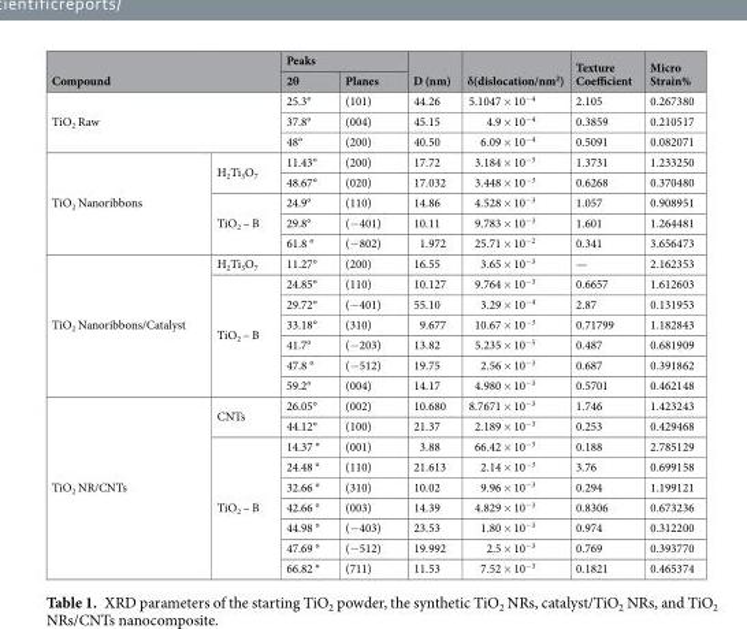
<table><thead><tr><td rowspan="2" colspan="2">Compound</td><td colspan="2">Peaks</td><td rowspan="2">D (nm)</td><td rowspan="2">δ(dislocation/nm<sup>2</sup>)</td><td rowspan="2">Texture Coefficient</td><td rowspan="2">Micro Strain%</td></tr><tr><td>2θ</td><td>Planes</td></tr></thead><tbody><tr><td rowspan="3" colspan="2">TiO<sub>2</sub> Raw</td><td>25.3°</td><td>(101)</td><td>44.26</td><td>5.1047 × 10<sup>−4</sup></td><td>2.105</td><td>0.267380</td></tr><tr><td>37.8°</td><td>(004)</td><td>45.15</td><td>4.9 × 10<sup>−4</sup></td><td>0.3859</td><td>0.210517</td></tr><tr><td>48°</td><td>(200)</td><td>40.50</td><td>6.09 × 10<sup>−4</sup></td><td>0.5091</td><td>0.082071</td></tr><tr><td rowspan="5">TiO<sub>2</sub> Nanoribbons</td><td rowspan="2">H<sub>2</sub>Ti<sub>3</sub>O<sub>7</sub></td><td>11.43°</td><td>(200)</td><td>17.72</td><td>3.184 × 10<sup>−3</sup></td><td>1.3731</td><td>1.233250</td></tr><tr><td>48.67°</td><td>(020)</td><td>17.032</td><td>3.448 × 10<sup>−3</sup></td><td>0.6268</td><td>0.370480</td></tr><tr><td rowspan="3">TiO<sub>2</sub> – B</td><td>24.9°</td><td>(110)</td><td>14.86</td><td>4.528 × 10<sup>−3</sup></td><td>1.057</td><td>0.908951</td></tr><tr><td>29.8°</td><td>(−401)</td><td>10.11</td><td>9.783 × 10<sup>−3</sup></td><td>1.601</td><td>1.264481</td></tr><tr><td>61.8 °</td><td>(−802)</td><td>1.972</td><td>25.71 × 10<sup>−2</sup></td><td>0.341</td><td>3.656473</td></tr><tr><td rowspan="7">TiO<sub>2</sub> Nanoribbons/Catalyst</td><td>H<sub>2</sub>Ti<sub>3</sub>O<sub>7</sub></td><td>11.27°</td><td>(200)</td><td>16.55</td><td>3.65 × 10<sup>−3</sup></td><td>—</td><td>2.162353</td></tr><tr><td rowspan="6">TiO<sub>2</sub> – B</td><td>24.85°</td><td>(110)</td><td>10.127</td><td>9.764 × 10<sup>−3</sup></td><td>0.6657</td><td>1.612603</td></tr><tr><td>29.72°</td><td>(−401)</td><td>55.10</td><td>3.29 × 10<sup>−4</sup></td><td>2.87</td><td>0.131953</td></tr><tr><td>33.18°</td><td>(310)</td><td>9.677</td><td>10.67 × 10<sup>−3</sup></td><td>0.71799</td><td>1.182843</td></tr><tr><td>41.7°</td><td>(−203)</td><td>13.82</td><td>5.235 × 10<sup>−5</sup></td><td>0.487</td><td>0.681909</td></tr><tr><td>47.8 °</td><td>(−512)</td><td>19.75</td><td>2.56 × 10<sup>−3</sup></td><td>0.687</td><td>0.391862</td></tr><tr><td>59.2°</td><td>(004)</td><td>14.17</td><td>4.980 × 10<sup>−3</sup></td><td>0.5701</td><td>0.462148</td></tr><tr><td rowspan="9">TiO<sub>2</sub> NR/CNTs</td><td rowspan="2">CNTs</td><td>26.05°</td><td>(002)</td><td>10.680</td><td>8.7671 × 10<sup>−3</sup></td><td>1.746</td><td>1.423243</td></tr><tr><td>44.12°</td><td>(100)</td><td>21.37</td><td>2.189 × 10<sup>−3</sup></td><td>0.253</td><td>0.429468</td></tr><tr><td rowspan="7">TiO<sub>2</sub> – B</td><td>14.37 °</td><td>(001)</td><td>3.88</td><td>66.42 × 10<sup>−3</sup></td><td>0.188</td><td>2.785129</td></tr><tr><td>24.48 °</td><td>(110)</td><td>21.613</td><td>2.14 × 10<sup>−3</sup></td><td>3.76</td><td>0.699158</td></tr><tr><td>32.66 °</td><td>(310)</td><td>10.02</td><td>9.96 × 10<sup>−3</sup></td><td>0.294</td><td>1.199121</td></tr><tr><td>42.66 °</td><td>(003)</td><td>14.39</td><td>4.829 × 10<sup>−3</sup></td><td>0.8306</td><td>0.673236</td></tr><tr><td>44.98 °</td><td>(−403)</td><td>23.53</td><td>1.80 × 10<sup>−3</sup></td><td>0.974</td><td>0.312200</td></tr><tr><td>47.69 °</td><td>(−512)</td><td>19.992</td><td>2.5 × 10<sup>−3</sup></td><td>0.769</td><td>0.393770</td></tr><tr><td>66.82 °</td><td>(711)</td><td>11.53</td><td>7.52 × 10<sup>−3</sup></td><td>0.1821</td><td>0.465374</td></tr></tbody></table>